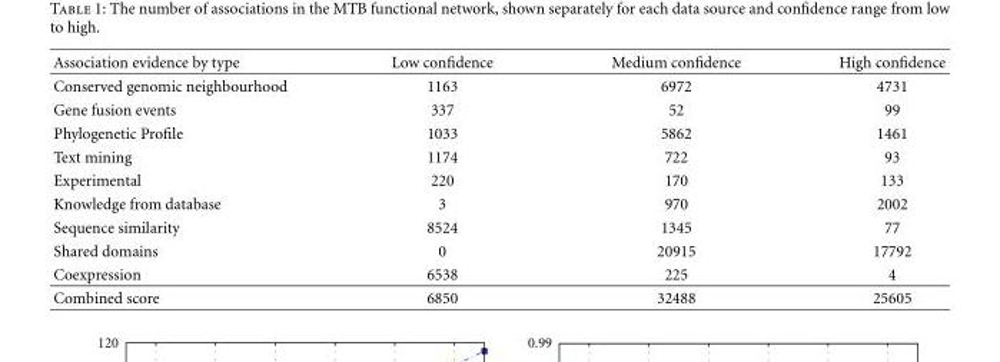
<table><thead><tr><td>Association evidence by type</td><td>Low confidence</td><td>Medium confidence</td><td>High confidence</td></tr></thead><tbody><tr><td>Conserved genomic neighbourhood</td><td>1163</td><td>6972</td><td>4731</td></tr><tr><td>Gene fusion events</td><td>337</td><td>52</td><td>99</td></tr><tr><td>Phylogenetic Profile</td><td>1033</td><td>5862</td><td>1461</td></tr><tr><td>Text mining</td><td>1174</td><td>722</td><td>93</td></tr><tr><td>Experimental</td><td>220</td><td>170</td><td>133</td></tr><tr><td>Knowledge from database</td><td>3</td><td>970</td><td>2002</td></tr><tr><td>Sequence similarity</td><td>8524</td><td>1345</td><td>77</td></tr><tr><td>Shared domains</td><td>0</td><td>20915</td><td>17792</td></tr><tr><td>Coexpression</td><td>6538</td><td>225</td><td>4</td></tr><tr><td>Combined score</td><td>6850</td><td>32488</td><td>25605</td></tr></tbody></table>